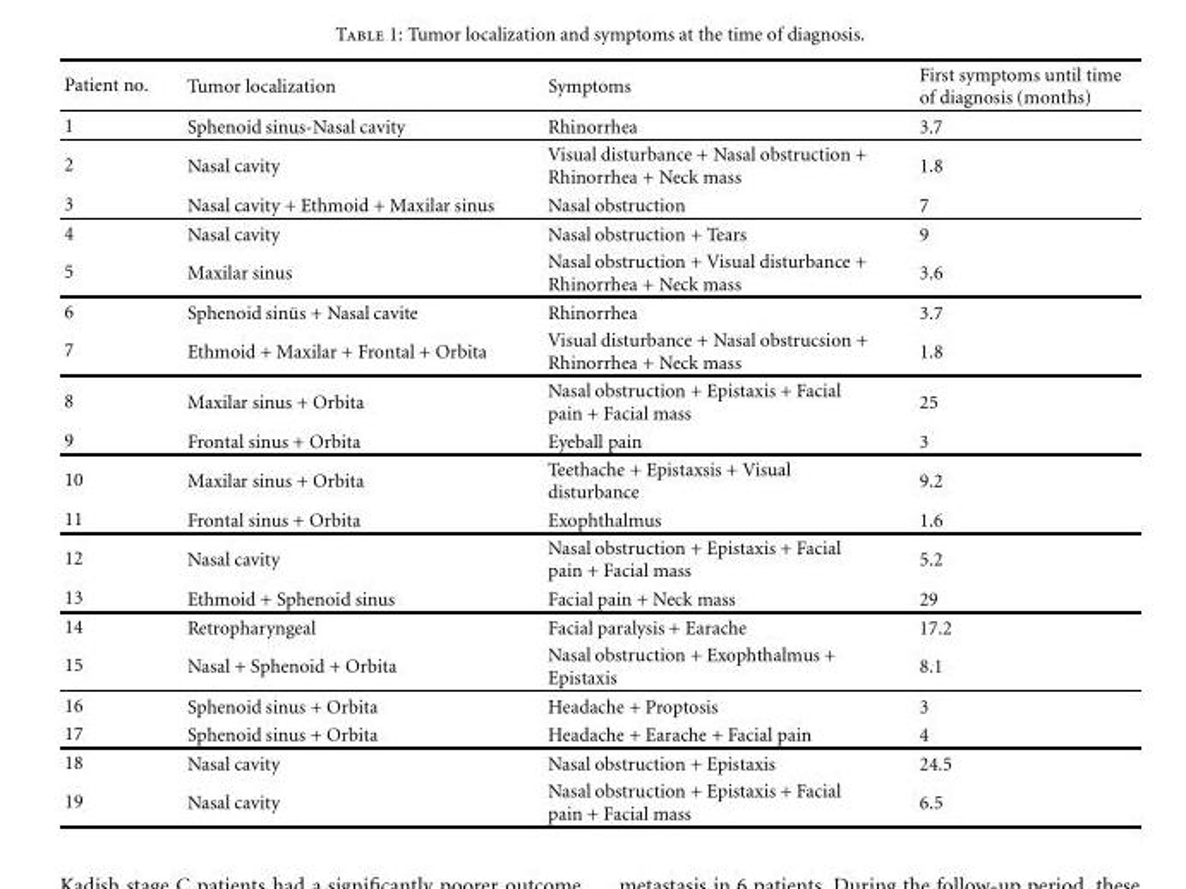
<table><thead><tr><td>Patient no.</td><td>Tumor localization</td><td>Symptoms</td><td>First symptoms until time of diagnosis (months)</td></tr></thead><tbody><tr><td>1</td><td>Sphenoid sinus-Nasal cavity</td><td>Rhinorrhea</td><td>3.7</td></tr><tr><td>2</td><td>Nasal cavity</td><td>Visual disturbance + Nasal obstruction + Rhinorrhea + Neck mass</td><td>1.8</td></tr><tr><td>3</td><td>Nasal cavity + Ethmoid + Maxilar sinus</td><td>Nasal obstruction</td><td>7</td></tr><tr><td>4</td><td>Nasal cavity</td><td>Nasal obstruction + Tears</td><td>9</td></tr><tr><td>5</td><td>Maxilar sinus</td><td>Nasal obstruction + Visual disturbance + Rhinorrhea + Neck mass</td><td>3.6</td></tr><tr><td>6</td><td>Sphenoid sin¨us + Nasal cavite</td><td>Rhinorrhea</td><td>3.7</td></tr><tr><td>7</td><td>Ethmoid + Maxilar + Frontal + Orbita</td><td>Visual disturbance + Nasal obstrucsion + Rhinorrhea + Neck mass</td><td>1.8</td></tr><tr><td>8</td><td>Maxilar sinus + Orbita</td><td>Nasal obstruction + Epistaxis + Facial pain + Facial mass</td><td>25</td></tr><tr><td>9</td><td>Frontal sinus + Orbita</td><td>Eyeball pain</td><td>3</td></tr><tr><td>10</td><td>Maxilar sinus + Orbita</td><td>Teethache + Epistaxsis + Visual disturbance</td><td>9.2</td></tr><tr><td>11</td><td>Frontal sinus + Orbita</td><td>Exophthalmus</td><td>1.6</td></tr><tr><td>12</td><td>Nasal cavity</td><td>Nasal obstruction + Epistaxis + Facial pain + Facial mass</td><td>5.2</td></tr><tr><td>13</td><td>Ethmoid + Sphenoid sinus</td><td>Facial pain + Neck mass</td><td>29</td></tr><tr><td>14</td><td>Retropharyngeal</td><td>Facial paralysis + Earache</td><td>17.2</td></tr><tr><td>15</td><td>Nasal + Sphenoid + Orbita</td><td>Nasal obstruction + Exophthalmus + Epistaxis</td><td>8.1</td></tr><tr><td>16</td><td>Sphenoid sinus + Orbita</td><td>Headache + Proptosis</td><td>3</td></tr><tr><td>17</td><td>Sphenoid sinus + Orbita</td><td>Headache + Earache + Facial pain</td><td>4</td></tr><tr><td>18</td><td>Nasal cavity</td><td>Nasal obstruction + Epistaxis</td><td>24.5</td></tr><tr><td>19</td><td>Nasal cavity</td><td>Nasal obstruction + Epistaxis + Facial pain + Facial mass</td><td>6.5</td></tr></tbody></table>